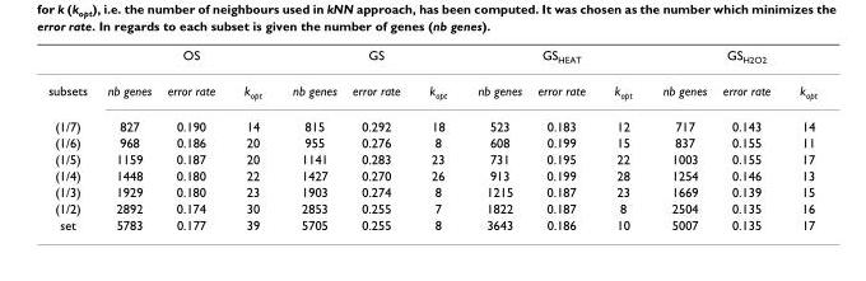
<table><thead><tr><td rowspan="2">subsets</td><td colspan="3">OS</td><td colspan="3">GS</td><td colspan="3">GSHEAT</td><td colspan="3">GSH2O2</td></tr><tr><td>nb genes</td><td>error rate</td><td>kopt</td><td>nb genes</td><td>error rate</td><td>kopt</td><td>nb genes</td><td>error rate</td><td>kopt</td><td>nb genes</td><td>error rate</td><td>kopt</td></tr></thead><tbody><tr><td>(1/7)</td><td>827</td><td>0.190</td><td>14</td><td>815</td><td>0.292</td><td>18</td><td>523</td><td>0.183</td><td>12</td><td>717</td><td>0.143</td><td>14</td></tr><tr><td>(1/6)</td><td>968</td><td>0.186</td><td>20</td><td>955</td><td>0.276</td><td>8</td><td>608</td><td>0.199</td><td>15</td><td>837</td><td>0.155</td><td>11</td></tr><tr><td>(1/5)</td><td>1159</td><td>0.187</td><td>20</td><td>1141</td><td>0.283</td><td>23</td><td>731</td><td>0.195</td><td>22</td><td>1003</td><td>0.155</td><td>17</td></tr><tr><td>(1/4)</td><td>1448</td><td>0.180</td><td>22</td><td>1427</td><td>0.270</td><td>26</td><td>913</td><td>0.199</td><td>28</td><td>1254</td><td>0.146</td><td>13</td></tr><tr><td>(1/3)</td><td>1929</td><td>0.180</td><td>23</td><td>1903</td><td>0.274</td><td>8</td><td>1215</td><td>0.187</td><td>23</td><td>1669</td><td>0.139</td><td>15</td></tr><tr><td>(1/2)</td><td>2892</td><td>0.174</td><td>30</td><td>2853</td><td>0.255</td><td>7</td><td>1822</td><td>0.187</td><td>8</td><td>2504</td><td>0.135</td><td>16</td></tr><tr><td>set</td><td>5783</td><td>0.177</td><td>39</td><td>5705</td><td>0.255</td><td>8</td><td>3643</td><td>0.186</td><td>10</td><td>5007</td><td>0.135</td><td>17</td></tr></tbody></table>